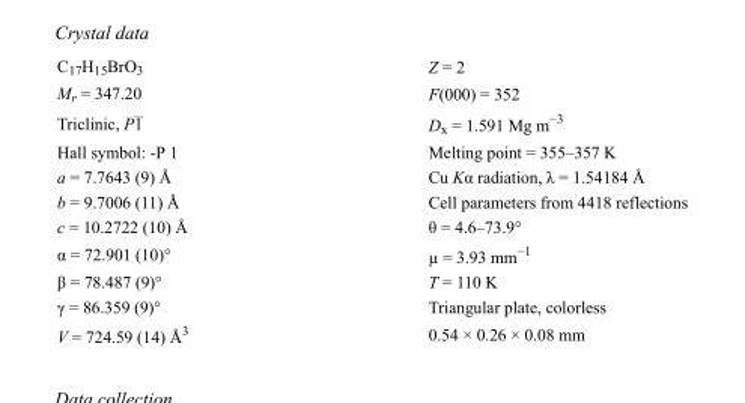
<table><tbody><tr><td>C<sub>17</sub>H<sub>15</sub>BrO<sub>3</sub></td><td>Z = 2</td></tr><tr><td>M<sub>r</sub> = 347.20</td><td>F(000) = 352</td></tr><tr><td>Triclinic, P1</td><td>D<sub>x</sub> = 1.591 Mg m<sup>−3</sup></td></tr><tr><td>Hall symbol: -P 1</td><td>Melting point = 355–357 K</td></tr><tr><td>a = 7.7643 (9) Å</td><td>Cu Kα radiation, λ = 1.54184 Å</td></tr><tr><td>b = 9.7006 (11) Å</td><td>Cell parameters from 4418 reflections</td></tr><tr><td>c = 10.2722 (10) Å</td><td>θ = 4.6–73.9°</td></tr><tr><td>α = 72.901 (10)°</td><td>µ = 3.93 mm<sup>−1</sup></td></tr><tr><td>β = 78.487 (9)°</td><td>T = 110 K</td></tr><tr><td>γ = 86.359 (9)°</td><td>Triangular plate, colorless</td></tr><tr><td>V = 724.59 (14) Å<sup>3</sup></td><td>0.54 × 0.26 × 0.08 mm</td></tr></tbody></table>